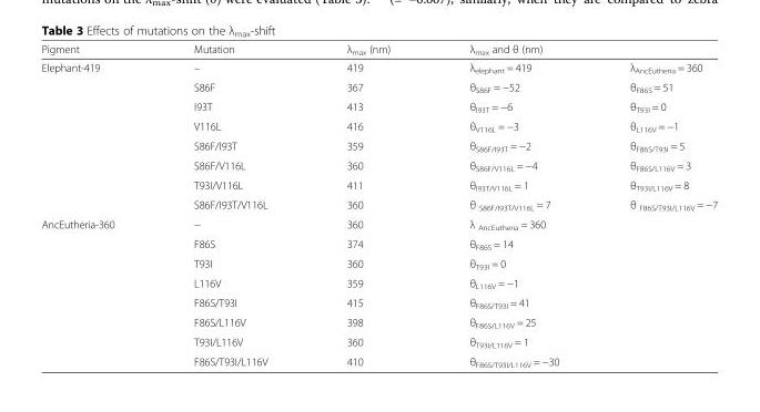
<table><thead><tr><td rowspan="2">Pigment Elephant-419</td><td rowspan="2">Mutation –</td><td rowspan="2">λ<sub>max</sub> (nm) 419</td><td colspan="2">λ<sub>max</sub> and θ (nm)</td></tr><tr><td>λ<sub>elephant</sub> = 419</td><td>λ<sub>AncEutheria</sub> = 360</td></tr></thead><tbody><tr><td></td><td>S86F</td><td>367</td><td>θ<sub>S86F</sub> = −52</td><td>θ<sub>F86S</sub> = 51</td></tr><tr><td></td><td>Ι93Τ</td><td>413</td><td>θ<sub>I93T</sub> = −6</td><td>θ<sub>T93I</sub> = 0</td></tr><tr><td></td><td>V116L</td><td>416</td><td>θ<sub>V116L</sub> = −3</td><td>θ<sub>L116V</sub> = −1</td></tr><tr><td></td><td>S86F/I93T</td><td>359</td><td>θ<sub>S86F/I93T</sub> = −2</td><td>θ<sub>F86S/T93I</sub> = 5</td></tr><tr><td></td><td>S86F/V116L</td><td>360</td><td>θ<sub>S86F/V116L</sub> = −4</td><td>θ<sub>F86S/L116V</sub> = 3</td></tr><tr><td></td><td>T93I/V116L</td><td>411</td><td>θ<sub>I93T/V116L</sub> = 1</td><td>θ<sub>T93I/L116V</sub> = 8</td></tr><tr><td></td><td>S86F/I93T/V116L</td><td>360</td><td>θ <sub>S86F/I93T/V116L</sub> = 7</td><td>θ <sub>F86S/T93I/L116V</sub> = −7</td></tr><tr><td rowspan="8">AncEutheria-360</td><td>−</td><td>360</td><td colspan="2">λ <sub>AncEutheria</sub> = 360</td></tr><tr><td>F86S</td><td>374</td><td colspan="2">θ<sub>F86S</sub> = 14</td></tr><tr><td>T93I</td><td>360</td><td colspan="2">θ<sub>T93I</sub> = 0</td></tr><tr><td>L116V</td><td>359</td><td colspan="2">θ<sub>L116V</sub> = −1</td></tr><tr><td>F86S/T93I</td><td>415</td><td colspan="2">θ<sub>F86S/T93I</sub> = 41</td></tr><tr><td>F86S/L116V</td><td>398</td><td colspan="2">θ<sub>F86S/L116V</sub> = 25</td></tr><tr><td>T93I/L116V</td><td>360</td><td colspan="2">θ<sub>T93I/L116V</sub> = 1</td></tr><tr><td>F86S/T93I/L116V</td><td>410</td><td colspan="2">θ<sub>F86S/T93I/L116V</sub> = −30</td></tr></tbody></table>